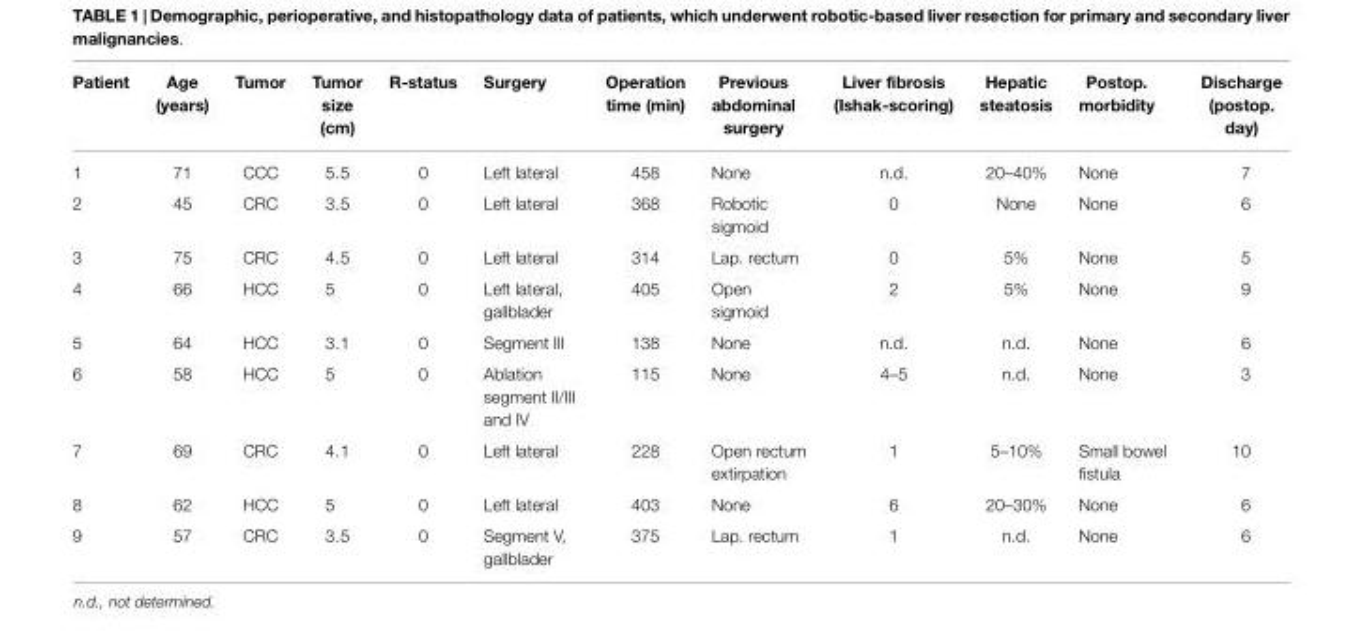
<table><thead><tr><td>Patient</td><td>Age (years)</td><td>Tumor</td><td>Tumor size (cm)</td><td>R-status</td><td>Surgery</td><td>Operation time (min)</td><td>Previous abdominal surgery</td><td>Liver fibrosis (Ishak-scoring)</td><td>Hepatic steatosis</td><td>Postop. morbidity</td><td>Discharge (postop. day)</td></tr></thead><tbody><tr><td>1</td><td>71</td><td>CCC</td><td>5.5</td><td>0</td><td>Left lateral</td><td>458</td><td>None</td><td>n.d.</td><td>20–40%</td><td>None</td><td>7</td></tr><tr><td>2</td><td>45</td><td>CRC</td><td>3.5</td><td>0</td><td>Left lateral</td><td>368</td><td>Robotic sigmoid</td><td>0</td><td>None</td><td>None</td><td>6</td></tr><tr><td>3</td><td>75</td><td>CRC</td><td>4.5</td><td>0</td><td>Left lateral</td><td>314</td><td>Lap. rectum</td><td>0</td><td>5%</td><td>None</td><td>5</td></tr><tr><td>4</td><td>66</td><td>HCC</td><td>5</td><td>0</td><td>Left lateral, gallblader</td><td>405</td><td>Open sigmoid</td><td>2</td><td>5%</td><td>None</td><td>9</td></tr><tr><td>5</td><td>64</td><td>HCC</td><td>3.1</td><td>0</td><td>Segment III</td><td>138</td><td>None</td><td>n.d.</td><td>n.d.</td><td>None</td><td>6</td></tr><tr><td>6</td><td>58</td><td>HCC</td><td>5</td><td>0</td><td>Ablation segment II/III and IV</td><td>115</td><td>None</td><td>4–5</td><td>n.d.</td><td>None</td><td>3</td></tr><tr><td>7</td><td>69</td><td>CRC</td><td>4.1</td><td>0</td><td>Left lateral</td><td>228</td><td>Open rectum extirpation</td><td>1</td><td>5–10%</td><td>Small bowel fistula</td><td>10</td></tr><tr><td>8</td><td>62</td><td>HCC</td><td>5</td><td>0</td><td>Left lateral</td><td>403</td><td>None</td><td>6</td><td>20–30%</td><td>None</td><td>6</td></tr><tr><td>9</td><td>57</td><td>CRC</td><td>3.5</td><td>0</td><td>Segment V, gallblader</td><td>375</td><td>Lap. rectum</td><td>1</td><td>n.d.</td><td>None</td><td>6</td></tr></tbody></table>